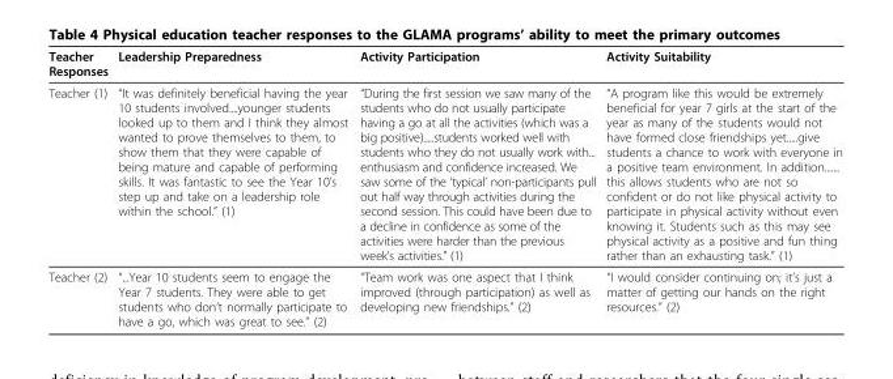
<table><thead><tr><td>Teacher Responses</td><td>Leadership Preparedness</td><td>Activity Participation</td><td>Activity Suitability</td></tr></thead><tbody><tr><td>Teacher (1)</td><td>“It was definitely beneficial having the year 10 students involved....younger students looked up to them and I think they almost wanted to prove themselves to them, to show them that they were capable of being mature and capable of performing skills. It was fantastic to see the Year 10’s step up and take on a leadership role within the school.” (1)</td><td>“During the first session we saw many of the students who do not usually participate having a go at all the activities (which was a big positive).....students worked well with students who they do not usually work with... enthusiasm and confidence increased. We saw some of the ‘typical’ non-participants pull out half way through activities during the second session. This could have been due to a decline in confidence as some of the activities were harder than the previous week’s activities.” (1)</td><td>“A program like this would be extremely beneficial for year 7 girls at the start of the year as many of the students would not have formed close friendships yet.....give students a chance to work with everyone in a positive team environment. In addition....... this allows students who are not so confident or do not like physical activity to participate in physical activity without even knowing it. Students such as this may see physical activity as a positive and fun thing rather than an exhausting task.” (1)</td></tr><tr><td>Teacher (2)</td><td>“...Year 10 students seem to engage the Year 7 students. They were able to get students who don’t normally participate to have a go, which was great to see.” (2)</td><td>“Team work was one aspect that I think improved (through participation) as well as developing new friendships.” (2)</td><td>“I would consider continuing on; it’s just a matter of getting our hands on the right resources.” (2)</td></tr></tbody></table>